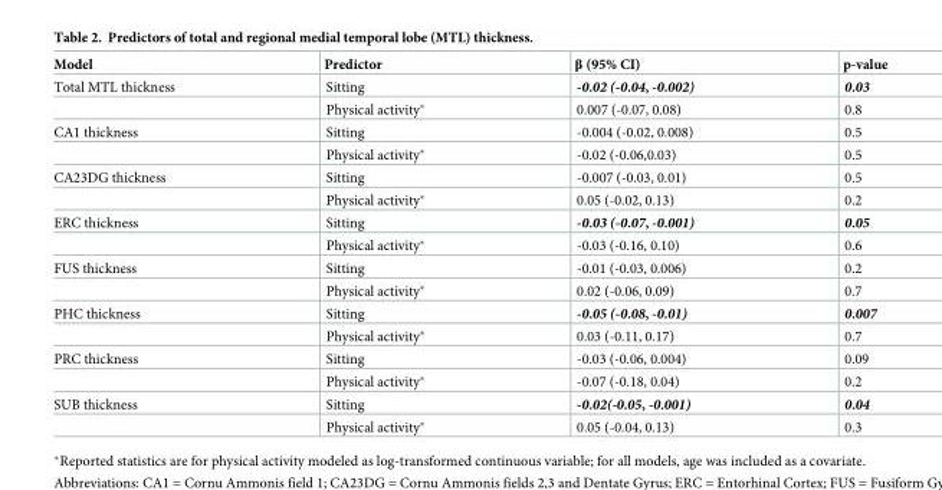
<table><thead><tr><td>Model</td><td>Predictor</td><td>β (95% CI)</td><td>p-value</td></tr></thead><tbody><tr><td rowspan="2">Total MTL thickness</td><td>Sitting</td><td>-0.02 (-0.04, -0.002)</td><td>0.03</td></tr><tr><td>Physical activity*</td><td>0.007 (-0.07, 0.08)</td><td>0.8</td></tr><tr><td rowspan="2">CA1 thickness</td><td>Sitting</td><td>-0.004 (-0.02, 0.008)</td><td>0.5</td></tr><tr><td>Physical activity*</td><td>-0.02 (-0.06,0.03)</td><td>0.5</td></tr><tr><td rowspan="2">CA23DG thickness</td><td>Sitting</td><td>-0.007 (-0.03, 0.01)</td><td>0.5</td></tr><tr><td>Physical activity*</td><td>0.05 (-0.02, 0.13)</td><td>0.2</td></tr><tr><td rowspan="2">ERC thickness</td><td>Sitting</td><td>-0.03 (-0.07, -0.001)</td><td>0.05</td></tr><tr><td>Physical activity*</td><td>-0.03 (-0.16, 0.10)</td><td>0.6</td></tr><tr><td rowspan="2">FUS thickness</td><td>Sitting</td><td>-0.01 (-0.03, 0.006)</td><td>0.2</td></tr><tr><td>Physical activity*</td><td>0.02 (-0.06, 0.09)</td><td>0.7</td></tr><tr><td rowspan="2">PHC thickness</td><td>Sitting</td><td>-0.05 (-0.08, -0.01)</td><td>0.007</td></tr><tr><td>Physical activity*</td><td>0.03 (-0.11, 0.17)</td><td>0.7</td></tr><tr><td rowspan="2">PRC thickness</td><td>Sitting</td><td>-0.03 (-0.06, 0.004)</td><td>0.09</td></tr><tr><td>Physical activity*</td><td>-0.07 (-0.18, 0.04)</td><td>0.2</td></tr><tr><td rowspan="2">SUB thickness</td><td>Sitting</td><td>-0.02(-0.05, -0.001)</td><td>0.04</td></tr><tr><td>Physical activity*</td><td>0.05 (-0.04, 0.13)</td><td>0.3</td></tr></tbody></table>